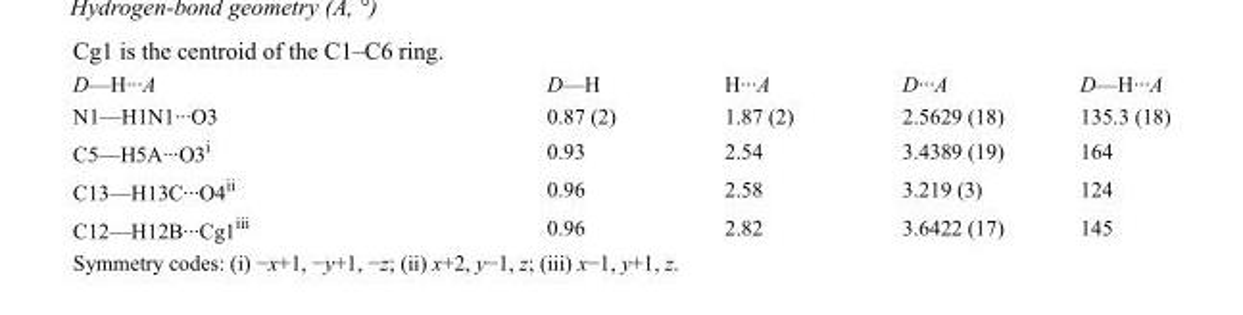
<table><tbody><tr><td>D—H···A</td><td>D—H</td><td>H···A</td><td>D···A</td><td>D—H···A</td></tr><tr><td>N1—H1N1···O3</td><td>0.87 (2)</td><td>1.87 (2)</td><td>2.5629 (18)</td><td>135.3 (18)</td></tr><tr><td>C5—H5A···O3<sup>i</sup></td><td>0.93</td><td>2.54</td><td>3.4389 (19)</td><td>164</td></tr><tr><td>C13—H13C···O4<sup>ii</sup></td><td>0.96</td><td>2.58</td><td>3.219 (3)</td><td>124</td></tr><tr><td>C12—H12B···Cg1<sup>iii</sup></td><td>0.96</td><td>2.82</td><td>3.6422 (17)</td><td>145</td></tr></tbody></table>